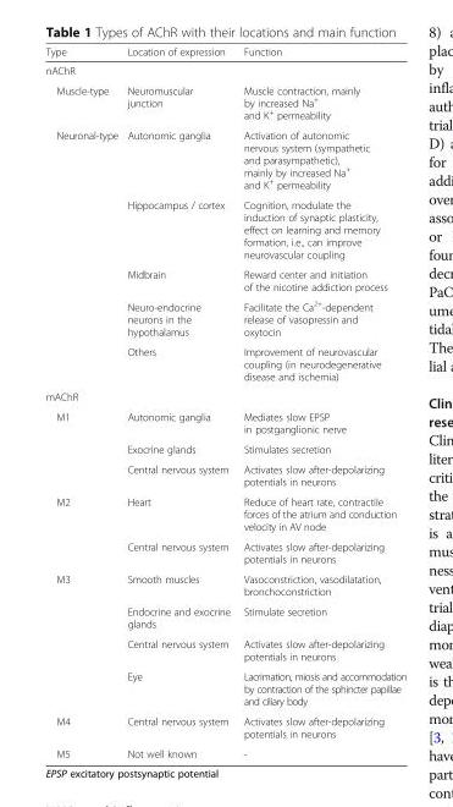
<table><thead><tr><td>Type</td><td>Location of expression</td><td>Function</td></tr></thead><tbody><tr><td colspan="3">nAChR</td></tr><tr><td>Muscle-type</td><td>Neuromuscular junction</td><td>Muscle contraction, mainly by increased Na<sup>+</sup> and K<sup>+</sup> permeability</td></tr><tr><td rowspan="5">Neuronal-type</td><td>Autonomic ganglia</td><td>Activation of autonomic nervous system (sympathetic and parasympathetic), mainly by increased Na<sup>+</sup> and K<sup>+</sup> permeability</td></tr><tr><td>Hippocampus / cortex</td><td>Cognition, modulate the induction of synaptic plasticity, effect on learning and memory formation, i.e., can improve neurovascular coupling</td></tr><tr><td>Midbrain</td><td>Reward center and initiation of the nicotine addiction process</td></tr><tr><td>Neuro-endocrine neurons in the hypothalamus</td><td>Facilitate the Ca<sup>2+</sup>-dependent release of vasopressin and oxytocin</td></tr><tr><td>Others</td><td>Improvement of neurovascular coupling (in neurodegenerative disease and ischemia)</td></tr><tr><td colspan="3">mAChR</td></tr><tr><td rowspan="3">M1</td><td>Autonomic ganglia</td><td>Mediates slow EPSP in postganglionic nerve</td></tr><tr><td>Exocrine glands</td><td>Stimulates secretion</td></tr><tr><td>Central nervous system</td><td>Activates slow after-depolarizing potentials in neurons</td></tr><tr><td rowspan="2">M2</td><td>Heart</td><td>Reduce of heart rate, contractile forces of the atrium and conduction velocity in AV node</td></tr><tr><td>Central nervous system</td><td>Activates slow after-depolarizing potentials in neurons</td></tr><tr><td rowspan="4">M3</td><td>Smooth muscles</td><td>Vasoconstriction, vasodilatation, bronchoconstriction</td></tr><tr><td>Endocrine and exocrine glands</td><td>Stimulate secretion</td></tr><tr><td>Central nervous system</td><td>Activates slow after-depolarizing potentials in neurons</td></tr><tr><td>Eye</td><td>Lacrimation, miosis and accommodation by contraction of the sphincter papillae and ciliary body</td></tr><tr><td>M4</td><td>Central nervous system</td><td>Activates slow after-depolarizing potentials in neurons</td></tr><tr><td>M5</td><td>Not well known</td><td>-</td></tr></tbody></table>